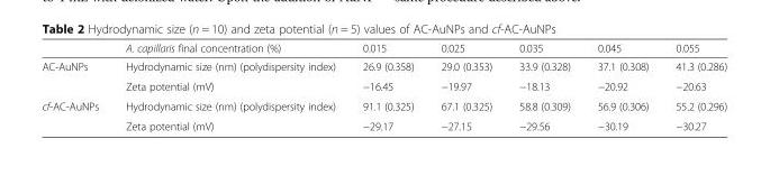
<table><thead><tr><td></td><td>A. capillaris final concentration (%)</td><td>0.015</td><td>0.025</td><td>0.035</td><td>0.045</td><td>0.055</td></tr></thead><tbody><tr><td rowspan="2">AC-AuNPs</td><td>Hydrodynamic size (nm) (polydispersity index)</td><td>26.9 (0.358)</td><td>29.0 (0.353)</td><td>33.9 (0.328)</td><td>37.1 (0.308)</td><td>41.3 (0.286)</td></tr><tr><td>Zeta potential (mV)</td><td>−16.45</td><td>−19.97</td><td>−18.13</td><td>−20.92</td><td>−20.63</td></tr><tr><td rowspan="2">cf-AC-AuNPs</td><td>Hydrodynamic size (nm) (polydispersity index)</td><td>91.1 (0.325)</td><td>67.1 (0.325)</td><td>58.8 (0.309)</td><td>56.9 (0.306)</td><td>55.2 (0.296)</td></tr><tr><td>Zeta potential (mV)</td><td>−29.17</td><td>−27.15</td><td>−29.56</td><td>−30.19</td><td>−30.27</td></tr></tbody></table>